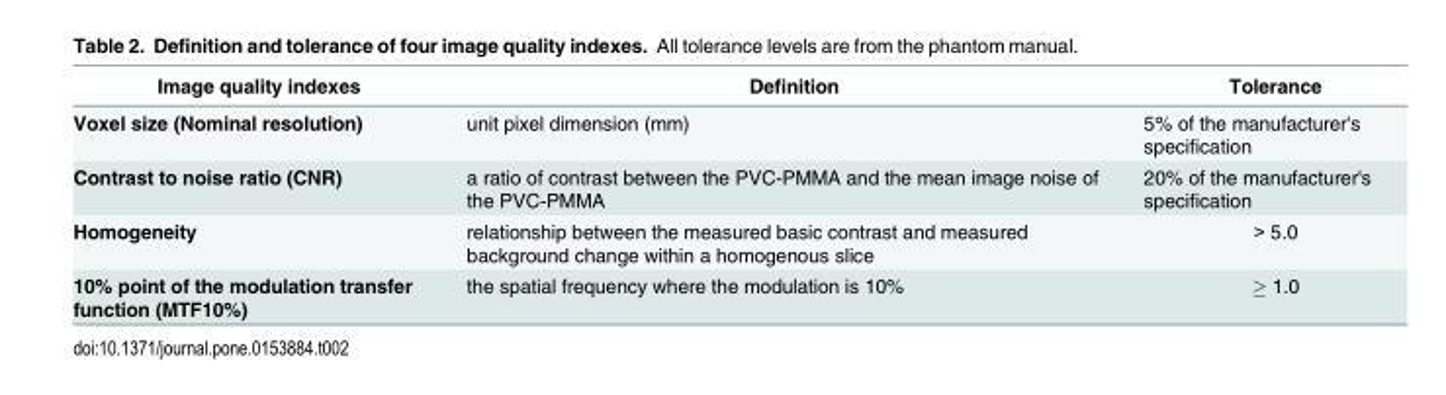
<table><thead><tr><td>Image quality indexes</td><td>Definition</td><td>Tolerance</td></tr></thead><tbody><tr><td>Voxel size (Nominal resolution)</td><td>unit pixel dimension (mm)</td><td>5% of the manufacturer&#x27;s specification</td></tr><tr><td>Contrast to noise ratio (CNR)</td><td>a ratio of contrast between the PVC-PMMA and the mean image noise of the PVC-PMMA</td><td>20% of the manufacturer&#x27;s specification</td></tr><tr><td>Homogeneity</td><td>relationship between the measured basic contrast and measured background change within a homogenous slice</td><td>&gt; 5.0</td></tr><tr><td>10% point of the modulation transfer function (MTF10%)</td><td>the spatial frequency where the modulation is 10%</td><td>≥ 1.0</td></tr></tbody></table>